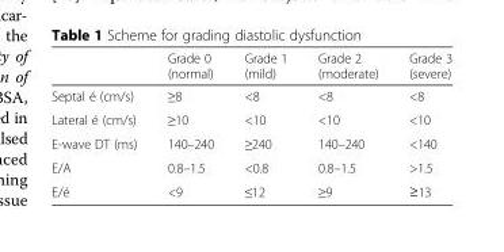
<table><thead><tr><td></td><td>Grade 0 (normal)</td><td>Grade 1 (mild)</td><td>Grade 2 (moderate)</td><td>Grade 3 (severe)</td></tr></thead><tbody><tr><td>Septal é (cm/s)</td><td>≥8</td><td>&lt;8</td><td>&lt;8</td><td>&lt;8</td></tr><tr><td>Lateral é (cm/s)</td><td>≥10</td><td>&lt;10</td><td>&lt;10</td><td>&lt;10</td></tr><tr><td>E-wave DT (ms)</td><td>140–240</td><td>≥240</td><td>140–240</td><td>&lt;140</td></tr><tr><td>E/A</td><td>0.8–1.5</td><td>&lt;0.8</td><td>0.8–1.5</td><td>&gt;1.5</td></tr><tr><td>E/é</td><td>&lt;9</td><td>≤12</td><td>≥9</td><td>≥13</td></tr></tbody></table>